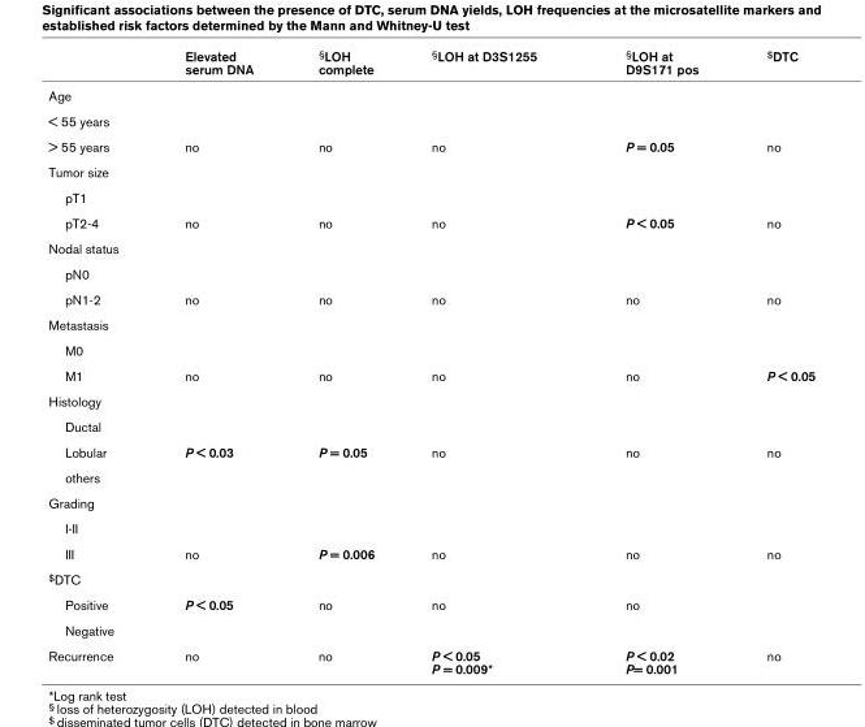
<table><thead><tr><td></td><td>Elevated serum DNA</td><td><sup>§</sup>LOH complete</td><td><sup>§</sup>LOH at D3S1255</td><td><sup>§</sup>LOH at D9S171 pos</td><td><sup>$</sup>DTC</td></tr></thead><tbody><tr><td colspan="6">Age</td></tr><tr><td colspan="6">&lt; 55 years</td></tr><tr><td>&gt; 55 years</td><td>no</td><td>no</td><td>no</td><td>P = 0.05</td><td>no</td></tr><tr><td colspan="6">Tumor size</td></tr><tr><td colspan="6">pT1</td></tr><tr><td>pT2-4</td><td>no</td><td>no</td><td>no</td><td>P &lt; 0.05</td><td>no</td></tr><tr><td colspan="6">Nodal status</td></tr><tr><td colspan="6">pN0</td></tr><tr><td>pN1-2</td><td>no</td><td>no</td><td>no</td><td>no</td><td>no</td></tr><tr><td colspan="6">Metastasis</td></tr><tr><td colspan="6">M0</td></tr><tr><td>M1</td><td>no</td><td>no</td><td>no</td><td>no</td><td>P &lt; 0.05</td></tr><tr><td colspan="6">Histology</td></tr><tr><td colspan="6">Ductal</td></tr><tr><td>Lobular</td><td>P &lt; 0.03</td><td>P = 0.05</td><td>no</td><td>no</td><td>no</td></tr><tr><td colspan="6">others</td></tr><tr><td colspan="6">Grading</td></tr><tr><td colspan="6">I-II</td></tr><tr><td>III</td><td>no</td><td>P = 0.006</td><td>no</td><td>no</td><td>no</td></tr><tr><td colspan="6"><sup>$</sup>DTC</td></tr><tr><td>Positive</td><td>P &lt; 0.05</td><td>no</td><td>no</td><td>no</td><td></td></tr><tr><td colspan="6">Negative</td></tr><tr><td>Recurrence</td><td>no</td><td>no</td><td>P &lt; 0.05 P = 0.009*</td><td>P &lt; 0.02 P= 0.001</td><td>no</td></tr></tbody></table>